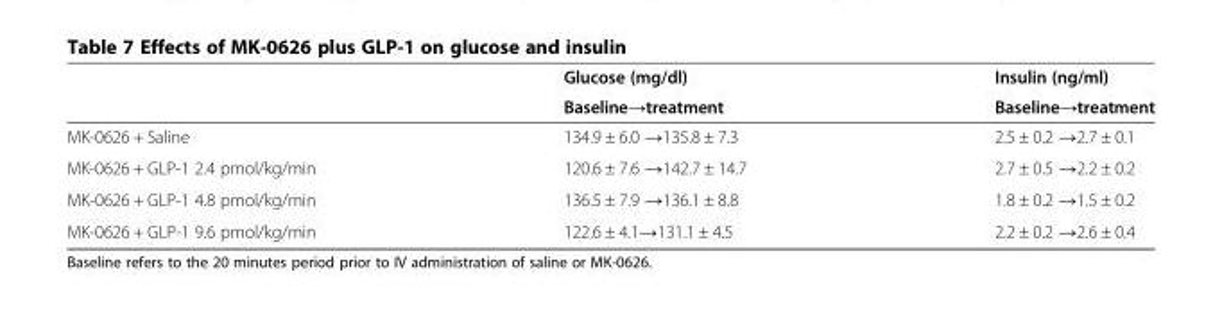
<table><thead><tr><td rowspan="2"></td><td rowspan="2">Glucose (mg/dl) Baseline→treatment</td><td rowspan="2">Insulin (ng/ml) Baseline→treatment</td></tr><tr></tr></thead><tbody><tr><td>MK-0626 + Saline</td><td>134.9 ± 6.0 →135.8 ± 7.3</td><td>2.5 ± 0.2 →2.7 ± 0.1</td></tr><tr><td>MK-0626 + GLP-1 2.4 pmol/kg/min</td><td>120.6 ± 7.6 →142.7 ± 14.7</td><td>2.7 ± 0.5 →2.2 ± 0.2</td></tr><tr><td>MK-0626 + GLP-1 4.8 pmol/kg/min</td><td>136.5 ± 7.9 →136.1 ± 8.8</td><td>1.8 ± 0.2 →1.5 ± 0.2</td></tr><tr><td>MK-0626 + GLP-1 9.6 pmol/kg/min</td><td>122.6 ± 4.1→131.1 ± 4.5</td><td>2.2 ± 0.2 →2.6 ± 0.4</td></tr></tbody></table>